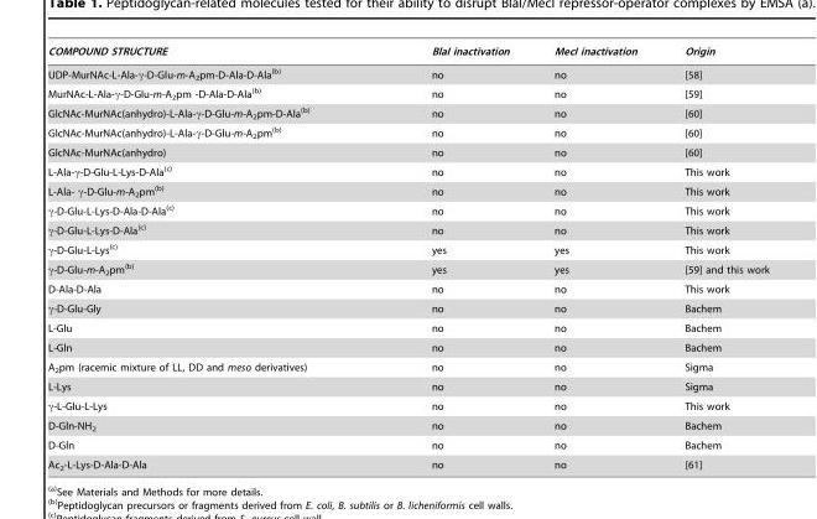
<table><thead><tr><td>COMPOUND STRUCTURE</td><td>BlaI inactivation</td><td>MecI inactivation</td><td>Origin</td></tr></thead><tbody><tr><td>UDP-MurNAc-L-Ala-γ-D-Glu-m-A<sub>2</sub>pm-D-Ala-D-Ala(b)</td><td>no</td><td>no</td><td>[58]</td></tr><tr><td>MurNAc-L-Ala-γ-D-Glu-m-A<sub>2</sub>pm -D-Ala-D-Ala(b)</td><td>no</td><td>no</td><td>[59]</td></tr><tr><td>GlcNAc-MurNAc(anhydro)-L-Ala-γ-D-Glu-m-A<sub>2</sub>pm-D-Ala(b)</td><td>no</td><td>no</td><td>[60]</td></tr><tr><td>GlcNAc-MurNAc(anhydro)-L-Ala-γ-D-Glu-m-A<sub>2</sub>pm(b)</td><td>no</td><td>no</td><td>[60]</td></tr><tr><td>GlcNAc-MurNAc(anhydro)</td><td>no</td><td>no</td><td>[60]</td></tr><tr><td>L-Ala-γ-D-Glu-L-Lys-D-Ala(c)</td><td>no</td><td>no</td><td>This work</td></tr><tr><td>L-Ala- γ-D-Glu-m-A<sub>2</sub>pm(b)</td><td>no</td><td>no</td><td>This work</td></tr><tr><td>γ-D-Glu-L-Lys-D-Ala-D-Ala(c)</td><td>no</td><td>no</td><td>This work</td></tr><tr><td>γ-D-Glu-L-Lys-D-Ala(c)</td><td>no</td><td>no</td><td>This work</td></tr><tr><td>γ-D-Glu-L-Lys(c)</td><td>yes</td><td>yes</td><td>This work</td></tr><tr><td>γ-D-Glu-m-A<sub>2</sub>pm(b)</td><td>yes</td><td>yes</td><td>[59] and this work</td></tr><tr><td>D-Ala-D-Ala</td><td>no</td><td>no</td><td>This work</td></tr><tr><td>γ-D-Glu-Gly</td><td>no</td><td>no</td><td>Bachem</td></tr><tr><td>L-Glu</td><td>no</td><td>no</td><td>Bachem</td></tr><tr><td>L-Gln</td><td>no</td><td>no</td><td>Bachem</td></tr><tr><td>A<sub>2</sub>pm (racemic mixture of LL, DD and meso derivatives)</td><td>no</td><td>no</td><td>Sigma</td></tr><tr><td>L-Lys</td><td>no</td><td>no</td><td>Sigma</td></tr><tr><td>γ-L-Glu-L-Lys</td><td>no</td><td>no</td><td>This work</td></tr><tr><td>D-Gln-NH<sub>2</sub></td><td>no</td><td>no</td><td>Bachem</td></tr><tr><td>D-Gln</td><td>no</td><td>no</td><td>Bachem</td></tr><tr><td>Ac<sub>2</sub>-L-Lys-D-Ala-D-Ala</td><td>no</td><td>no</td><td>[61]</td></tr></tbody></table>